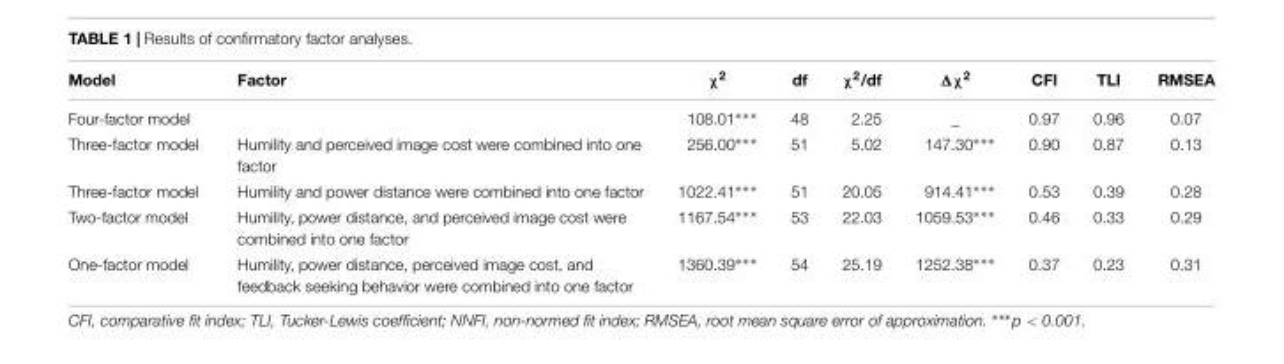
<table><thead><tr><td>Model</td><td>Factor</td><td>χ<sup>2</sup></td><td>df</td><td>χ<sup>2</sup>/df</td><td>Δχ<sup>2</sup></td><td>CFI</td><td>TLI</td><td>RMSEA</td></tr></thead><tbody><tr><td>Four-factor model</td><td></td><td>108.01∗∗∗</td><td>48</td><td>2.25</td><td>_</td><td>0.97</td><td>0.96</td><td>0.07</td></tr><tr><td>Three-factor model</td><td>Humility and perceived image cost were combined into one factor</td><td>256.00∗∗∗</td><td>51</td><td>5.02</td><td>147.30∗∗∗</td><td>0.90</td><td>0.87</td><td>0.13</td></tr><tr><td>Three-factor model</td><td>Humility and power distance were combined into one factor</td><td>1022.41∗∗∗</td><td>51</td><td>20.05</td><td>914.41∗∗∗</td><td>0.53</td><td>0.39</td><td>0.28</td></tr><tr><td>Two-factor model</td><td>Humility, power distance, and perceived image cost were combined into one factor</td><td>1167.54∗∗∗</td><td>53</td><td>22.03</td><td>1059.53∗∗∗</td><td>0.46</td><td>0.33</td><td>0.29</td></tr><tr><td>One-factor model</td><td>Humility, power distance, perceived image cost, and feedback seeking behavior were combined into one factor</td><td>1360.39∗∗∗</td><td>54</td><td>25.19</td><td>1252.38∗∗∗</td><td>0.37</td><td>0.23</td><td>0.31</td></tr></tbody></table>